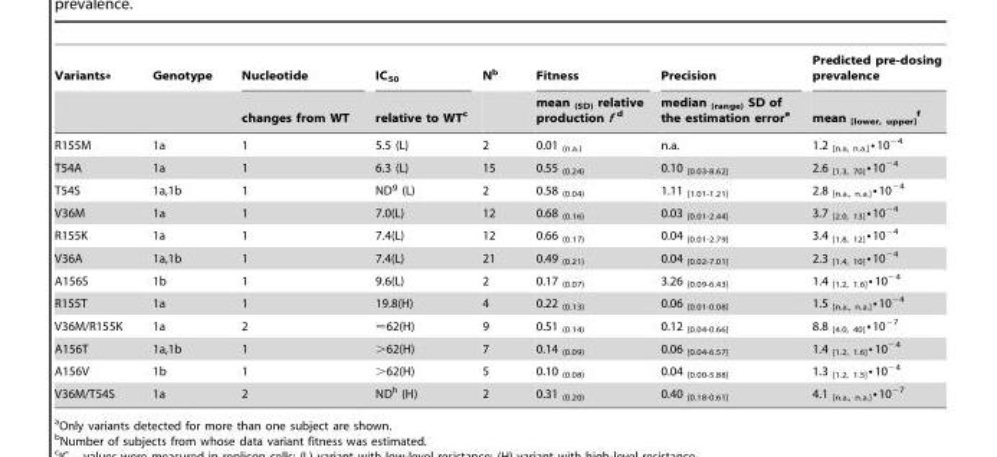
<table><thead><tr><td rowspan="2">Variants<sup>a</sup></td><td rowspan="2">Genotype</td><td rowspan="2">Nucleotide changes from WT</td><td rowspan="2">IC<sub>50</sub> relative to WT<sup>c</sup></td><td rowspan="2">N<sup>b</sup></td><td rowspan="2">Fitness mean <sub>(SD)</sub> relative production f d</td><td rowspan="2">Precision median <sub>(range)</sub> SD of the estimation error<sup>e</sup></td><td rowspan="2">Predicted pre-dosing prevalence mean <sub>[lower, upper]</sub> f</td></tr><tr></tr></thead><tbody><tr><td>R155M</td><td>1a</td><td>1</td><td>5.5 (L)</td><td>2</td><td>0.01 <sub>(n.a.)</sub></td><td>n.a.</td><td>1.2 <sub>[n.a, n.a.]</sub>•10<sup>−4</sup></td></tr><tr><td>T54A</td><td>1a</td><td>1</td><td>6.3 (L)</td><td>15</td><td>0.55 <sub>(0.24)</sub></td><td>0.10 <sub>[0.03-8.62]</sub></td><td>2.6 <sub>[1.3, 70]</sub>•10<sup>−4</sup></td></tr><tr><td>T54S</td><td>1a,1b</td><td>1</td><td>ND<sup>g</sup> (L)</td><td>2</td><td>0.58 <sub>(0.04)</sub></td><td>1.11 <sub>[1.01-1.21]</sub></td><td>2.8 <sub>[n.a., n.a.]</sub>•10<sup>−4</sup></td></tr><tr><td>V36M</td><td>1a</td><td>1</td><td>7.0(L)</td><td>12</td><td>0.68 <sub>(0.16)</sub></td><td>0.03 <sub>[0.01-2.44]</sub></td><td>3.7 <sub>[2.0, 13]</sub>•10<sup>−4</sup></td></tr><tr><td>R155K</td><td>1a</td><td>1</td><td>7.4(L)</td><td>12</td><td>0.66 <sub>(0.17)</sub></td><td>0.04 <sub>[0.01-2.79]</sub></td><td>3.4 <sub>[1.8, 12]</sub>•10<sup>−4</sup></td></tr><tr><td>V36A</td><td>1a,1b</td><td>1</td><td>7.4(L)</td><td>21</td><td>0.49 <sub>(0.21)</sub></td><td>0.04 <sub>[0.02-7.01]</sub></td><td>2.3 <sub>[1.4, 10]</sub>•10<sup>−4</sup></td></tr><tr><td>A156S</td><td>1b</td><td>1</td><td>9.6(L)</td><td>2</td><td>0.17 <sub>(0.07)</sub></td><td>3.26 <sub>[0.09-6.43]</sub></td><td>1.4 <sub>[1.2, 1.6]</sub>•10<sup>−4</sup></td></tr><tr><td>R155T</td><td>1a</td><td>1</td><td>19.8(H)</td><td>4</td><td>0.22 <sub>(0.13)</sub></td><td>0.06 <sub>[0.01-0.08]</sub></td><td>1.5 <sub>[n.a., n.a.]</sub>•10<sup>−4</sup></td></tr><tr><td>V36M/R155K</td><td>1a</td><td>2</td><td>&lt;62(H)</td><td>9</td><td>0.51 <sub>(0.14)</sub></td><td>0.12 <sub>[0.04-0.66]</sub></td><td>8.8 <sub>[4.0, 40]</sub>•10<sup>−7</sup></td></tr><tr><td>A156T</td><td>1a,1b</td><td>1</td><td>&gt;62(H)</td><td>7</td><td>0.14 <sub>(0.09)</sub></td><td>0.06 <sub>[0.04-6.57]</sub></td><td>1.4 <sub>[1.2, 1.6]</sub>•10<sup>−4</sup></td></tr><tr><td>A156V</td><td>1b</td><td>1</td><td>&gt;62(H)</td><td>5</td><td>0.10 <sub>(0.08)</sub></td><td>0.04 <sub>[0.00-5.88]</sub></td><td>1.3 <sub>[1.2, 1.5]</sub>•10<sup>−4</sup></td></tr><tr><td>V36M/T54S</td><td>1a</td><td>2</td><td>ND<sup>h</sup> (H)</td><td>2</td><td>0.31 <sub>(0.20)</sub></td><td>0.40 <sub>[0.18-0.61]</sub></td><td>4.1 <sub>[n.a., n.a.]</sub>•10<sup>−7</sup></td></tr></tbody></table>